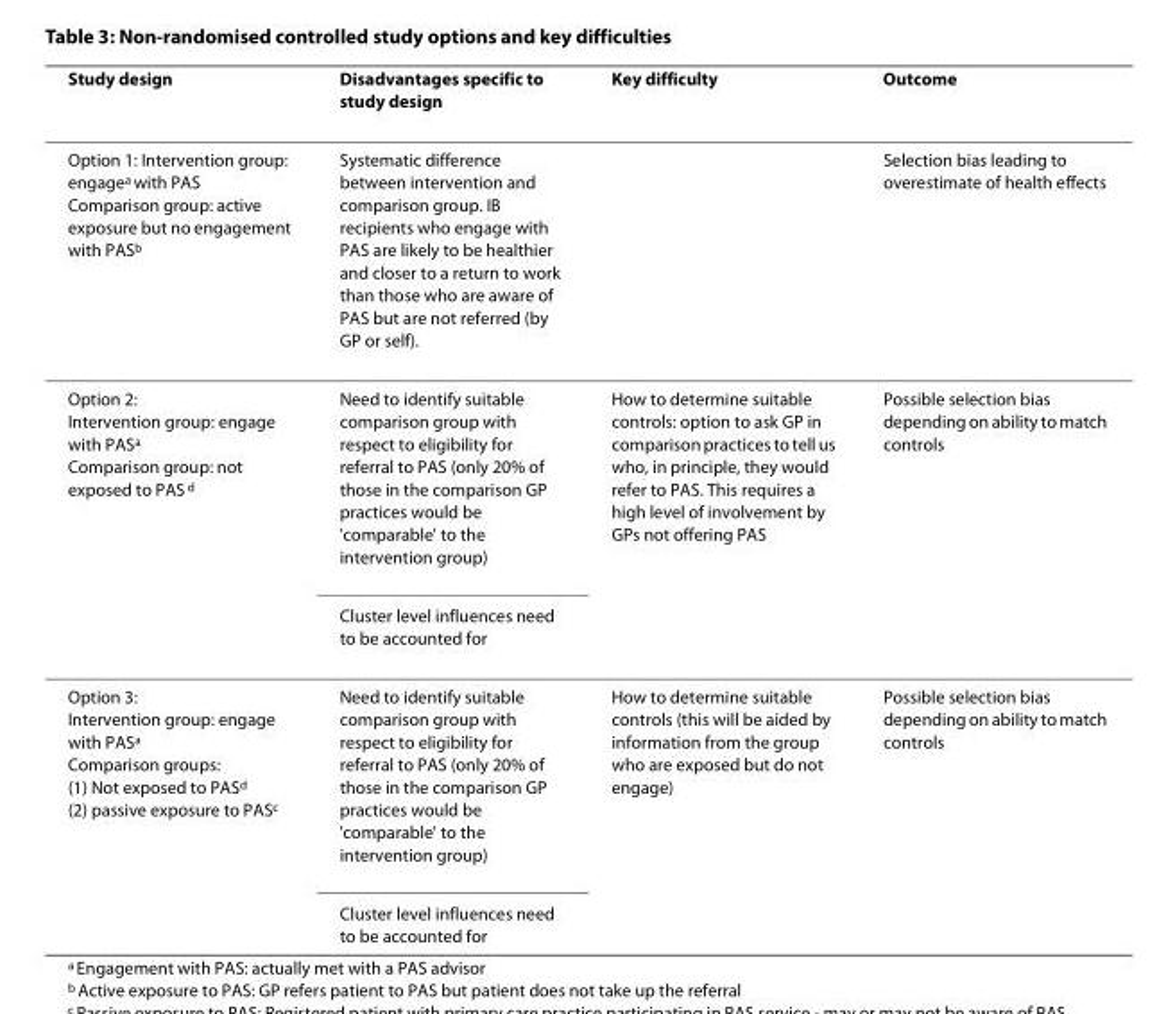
<table><thead><tr><td>Study design</td><td>Disadvantages specific to study design</td><td>Key difficulty</td><td>Outcome</td></tr></thead><tbody><tr><td>Option 1: Intervention group: engage<sup>a</sup> with PAS Comparison group: active exposure but no engagement with PAS<sup>b</sup></td><td>Systematic difference between intervention and comparison group. IB recipients who engage with PAS are likely to be healthier and closer to a return to work than those who are aware of PAS but are not referred (by GP or self).</td><td></td><td>Selection bias leading to overestimate of health effects</td></tr><tr><td rowspan="2">Option 2: Intervention group: engage with PAS<sup>a</sup> Comparison group: not exposed to PAS <sup>d</sup></td><td>Need to identify suitable comparison group with respect to eligibility for referral to PAS (only 20% of those in the comparison GP practices would be &#x27;comparable&#x27; to the intervention group)</td><td>How to determine suitable controls: option to ask GP in comparison practices to tell us who, in principle, they would refer to PAS. This requires a high level of involvement by GPs not offering PAS</td><td>Possible selection bias depending on ability to match controls</td></tr><tr><td>Cluster level influences need to be accounted for</td><td></td><td></td></tr><tr><td rowspan="2">Option 3: Intervention group: engage with PAS<sup>a</sup> Comparison groups: (1) Not exposed to PAS<sup>d</sup> (2) passive exposure to PAS<sup>c</sup></td><td>Need to identify suitable comparison group with respect to eligibility for referral to PAS (only 20% of those in the comparison GP practices would be &#x27;comparable&#x27; to the intervention group)</td><td>How to determine suitable controls (this will be aided by information from the group who are exposed but do not engage)</td><td>Possible selection bias depending on ability to match controls</td></tr><tr><td>Cluster level influences need to be accounted for</td><td></td><td></td></tr></tbody></table>